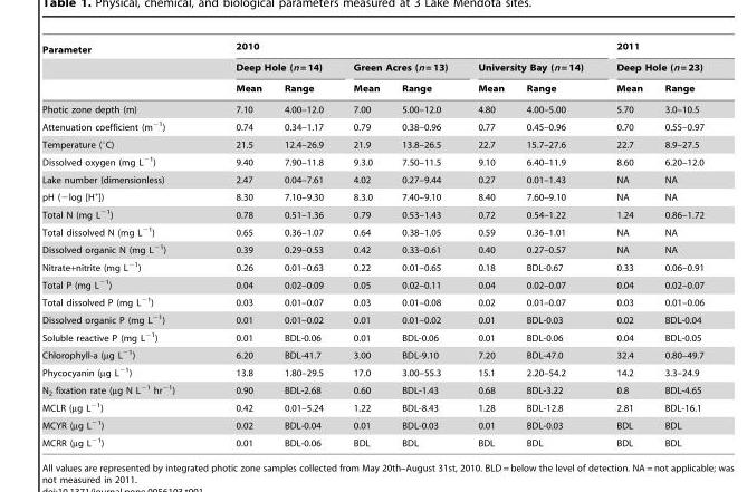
<table><thead><tr><td rowspan="3">Parameter</td><td colspan="6">2010</td><td rowspan="2" colspan="2">2011 Deep Hole (n = 23)</td></tr><tr><td colspan="2">Deep Hole (n = 14)</td><td colspan="2">Green Acres (n = 13)</td><td colspan="2">University Bay (n = 14)</td></tr><tr><td>Mean</td><td>Range</td><td>Mean</td><td>Range</td><td>Mean</td><td>Range</td><td>Mean</td><td>Range</td></tr></thead><tbody><tr><td>Photic zone depth (m)</td><td>7.10</td><td>4.00–12.0</td><td>7.00</td><td>5.00–12.0</td><td>4.80</td><td>4.00–5.00</td><td>5.70</td><td>3.0–10.5</td></tr><tr><td>Attenuation coefficient (m<sup>−1</sup>)</td><td>0.74</td><td>0.34–1.17</td><td>0.79</td><td>0.38–0.96</td><td>0.77</td><td>0.45–0.96</td><td>0.70</td><td>0.55–0.97</td></tr><tr><td>Temperature (°C)</td><td>21.5</td><td>12.4–26.9</td><td>21.9</td><td>13.8–26.5</td><td>22.7</td><td>15.7–27.6</td><td>22.7</td><td>8.9–27.5</td></tr><tr><td>Dissolved oxygen (mg L<sup>−1</sup>)</td><td>9.40</td><td>7.90–11.8</td><td>9.3.0</td><td>7.50–11.5</td><td>9.10</td><td>6.40–11.9</td><td>8.60</td><td>6.20–12.0</td></tr><tr><td>Lake number (dimensionless)</td><td>2.47</td><td>0.04–7.61</td><td>4.02</td><td>0.27–9.44</td><td>0.27</td><td>0.01–1.43</td><td>NA</td><td>NA</td></tr><tr><td>pH (−log [H<sup>+</sup>])</td><td>8.30</td><td>7.10–9.30</td><td>8.3.0</td><td>7.40–9.10</td><td>8.40</td><td>7.60–9.10</td><td>NA</td><td>NA</td></tr><tr><td>Total N (mg L<sup>−1</sup>)</td><td>0.78</td><td>0.51–1.36</td><td>0.79</td><td>0.53–1.43</td><td>0.72</td><td>0.54–1.22</td><td>1.24</td><td>0.86–1.72</td></tr><tr><td>Total dissolved N (mg L<sup>−1</sup>)</td><td>0.65</td><td>0.36–1.07</td><td>0.64</td><td>0.38–1.05</td><td>0.59</td><td>0.36–1.01</td><td>NA</td><td>NA</td></tr><tr><td>Dissolved organic N (mg L<sup>−1</sup>)</td><td>0.39</td><td>0.29–0.53</td><td>0.42</td><td>0.33–0.61</td><td>0.40</td><td>0.27–0.57</td><td>NA</td><td>NA</td></tr><tr><td>Nitrate+nitrite (mg L<sup>−1</sup>)</td><td>0.26</td><td>0.01–0.63</td><td>0.22</td><td>0.01–0.65</td><td>0.18</td><td>BDL-0.67</td><td>0.33</td><td>0.06–0.91</td></tr><tr><td>Total P (mg L<sup>−1</sup>)</td><td>0.04</td><td>0.02–0.09</td><td>0.05</td><td>0.02–0.11</td><td>0.04</td><td>0.02–0.07</td><td>0.04</td><td>0.02–0.07</td></tr><tr><td>Total dissolved P (mg L<sup>−1</sup>)</td><td>0.03</td><td>0.01–0.07</td><td>0.03</td><td>0.01–0.08</td><td>0.02</td><td>0.01–0.07</td><td>0.03</td><td>0.01–0.06</td></tr><tr><td>Dissolved organic P (mg L<sup>−1</sup>)</td><td>0.01</td><td>0.01–0.02</td><td>0.01</td><td>0.01–0.02</td><td>0.01</td><td>BDL-0.03</td><td>0.02</td><td>BDL-0.04</td></tr><tr><td>Soluble reactive P (mg L<sup>−1</sup>)</td><td>0.01</td><td>BDL-0.06</td><td>0.01</td><td>BDL-0.06</td><td>0.01</td><td>BDL-0.06</td><td>0.04</td><td>BDL-0.05</td></tr><tr><td>Chlorophyll-a (µg L<sup>−1</sup>)</td><td>6.20</td><td>BDL-41.7</td><td>3.00</td><td>BDL-9.10</td><td>7.20</td><td>BDL-47.0</td><td>32.4</td><td>0.80–49.7</td></tr><tr><td>Phycocyanin (µg L<sup>−1</sup>)</td><td>13.8</td><td>1.80–29.5</td><td>17.0</td><td>3.00–55.3</td><td>15.1</td><td>2.20–54.2</td><td>14.2</td><td>3.3–24.9</td></tr><tr><td>N<sub>2</sub> fixation rate (µg N L<sup>−1</sup> hr<sup>−1</sup>)</td><td>0.90</td><td>BDL-2.68</td><td>0.60</td><td>BDL-1.43</td><td>0.68</td><td>BDL-3.22</td><td>0.8</td><td>BDL-4.65</td></tr><tr><td>MCLR (µg L<sup>−1</sup>)</td><td>0.42</td><td>0.01–5.24</td><td>1.22</td><td>BDL-8.43</td><td>1.28</td><td>BDL-12.8</td><td>2.81</td><td>BDL-16.1</td></tr><tr><td>MCYR (µg L<sup>−1</sup>)</td><td>0.02</td><td>BDL-0.04</td><td>0.01</td><td>BDL-0.03</td><td>0.01</td><td>BDL-0.03</td><td>BDL</td><td>BDL</td></tr><tr><td>MCRR (µg L<sup>−1</sup>)</td><td>0.01</td><td>BDL-0.06</td><td>BDL</td><td>BDL</td><td>BDL</td><td>BDL</td><td>BDL</td><td>BDL</td></tr></tbody></table>